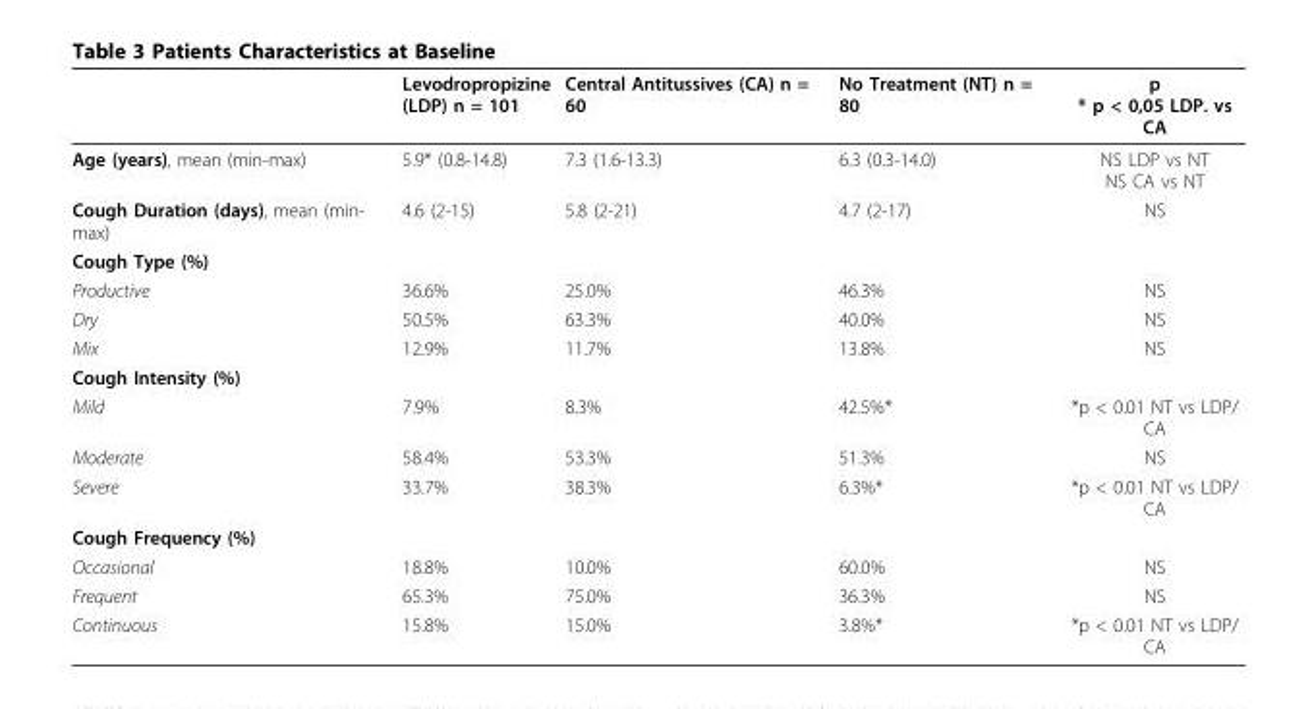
<table><thead><tr><td></td><td>Levodropropizine (LDP) n = 101</td><td>Central Antitussives (CA) n = 60</td><td>No Treatment (NT) n = 80</td><td>p * p &lt; 0,05 LDP. vs CA</td></tr></thead><tbody><tr><td>Age (years), mean (min-max)</td><td>5.9* (0.8-14.8)</td><td>7.3 (1.6-13.3)</td><td>6.3 (0.3-14.0)</td><td>NS LDP vs NT NS CA vs NT</td></tr><tr><td>Cough Duration (days), mean (min- max)</td><td>4.6 (2-15)</td><td>5.8 (2-21)</td><td>4.7 (2-17)</td><td>NS</td></tr><tr><td colspan="5">Cough Type (%)</td></tr><tr><td>Productive</td><td>36.6%</td><td>25.0%</td><td>46.3%</td><td>NS</td></tr><tr><td>Dry</td><td>50.5%</td><td>63.3%</td><td>40.0%</td><td>NS</td></tr><tr><td>Mix</td><td>12.9%</td><td>11.7%</td><td>13.8%</td><td>NS</td></tr><tr><td colspan="5">Cough Intensity (%)</td></tr><tr><td>Mild</td><td>7.9%</td><td>8.3%</td><td>42.5%*</td><td>*p &lt; 0.01 NT vs LDP/ CA</td></tr><tr><td>Moderate</td><td>58.4%</td><td>53.3%</td><td>51.3%</td><td>NS</td></tr><tr><td>Severe</td><td>33.7%</td><td>38.3%</td><td>6.3%*</td><td>*p &lt; 0.01 NT vs LDP/ CA</td></tr><tr><td colspan="5">Cough Frequency (%)</td></tr><tr><td>Occasional</td><td>18.8%</td><td>10.0%</td><td>60.0%</td><td>NS</td></tr><tr><td>Frequent</td><td>65.3%</td><td>75.0%</td><td>36.3%</td><td>NS</td></tr><tr><td>Continuous</td><td>15.8%</td><td>15.0%</td><td>3.8%*</td><td>*p &lt; 0.01 NT vs LDP/</td></tr></tbody></table>